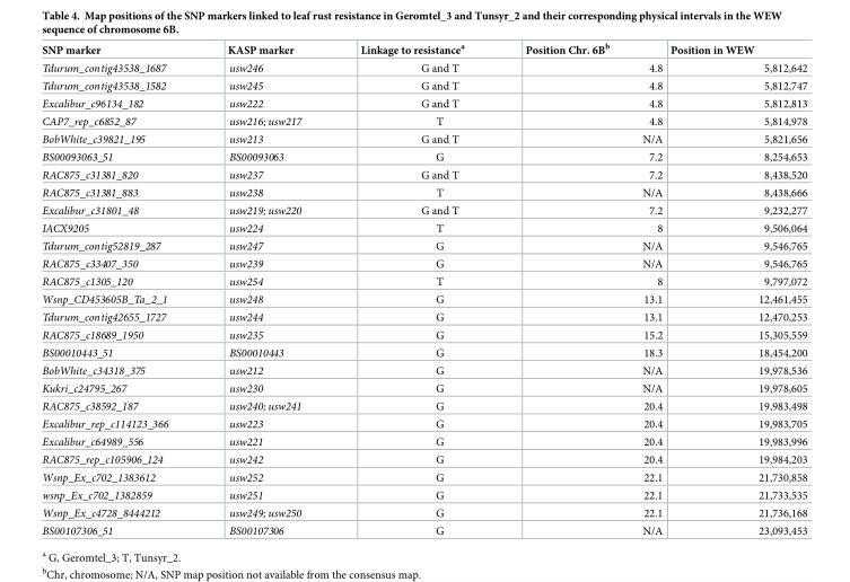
<table><thead><tr><td>SNP marker</td><td>KASP marker</td><td>Linkage to resistance<sup>a</sup></td><td>Position Chr. 6B<sup>b</sup></td><td>Position in WEW</td></tr></thead><tbody><tr><td>Tdurum_contig43538_1687</td><td>usw246</td><td>G and T</td><td>4.8</td><td>5,812,642</td></tr><tr><td>Tdurum_contig43538_1582</td><td>usw245</td><td>G and T</td><td>4.8</td><td>5,812,747</td></tr><tr><td>Excalibur_c96134_182</td><td>usw222</td><td>G and T</td><td>4.8</td><td>5,812,813</td></tr><tr><td>CAP7_rep_c6852_87</td><td>usw216; usw217</td><td>T</td><td>4.8</td><td>5,814,978</td></tr><tr><td>BobWhite_c39821_195</td><td>usw213</td><td>G and T</td><td>N/A</td><td>5,821,656</td></tr><tr><td>BS00093063_51</td><td>BS00093063</td><td>G</td><td>7.2</td><td>8,254,653</td></tr><tr><td>RAC875_c31381_820</td><td>usw237</td><td>G and T</td><td>7.2</td><td>8,438,520</td></tr><tr><td>RAC875_c31381_883</td><td>usw238</td><td>T</td><td>N/A</td><td>8,438,666</td></tr><tr><td>Excalibur_c31801_48</td><td>usw219; usw220</td><td>G and T</td><td>7.2</td><td>9,232,277</td></tr><tr><td>IACX9205</td><td>usw224</td><td>T</td><td>8</td><td>9,506,064</td></tr><tr><td>Tdurum_contig52819_287</td><td>usw247</td><td>G</td><td>N/A</td><td>9,546,765</td></tr><tr><td>RAC875_c33407_350</td><td>usw239</td><td>G</td><td>N/A</td><td>9,546,765</td></tr><tr><td>RAC875_c1305_120</td><td>usw254</td><td>T</td><td>8</td><td>9,797,072</td></tr><tr><td>Wsnp_CD453605B_Ta_2_1</td><td>usw248</td><td>G</td><td>13.1</td><td>12,461,455</td></tr><tr><td>Tdurum_contig42655_1727</td><td>usw244</td><td>G</td><td>13.1</td><td>12,470,253</td></tr><tr><td>RAC875_c18689_1950</td><td>usw235</td><td>G</td><td>15.2</td><td>15,305,559</td></tr><tr><td>BS00010443_51</td><td>BS00010443</td><td>G</td><td>18.3</td><td>18,454,200</td></tr><tr><td>BobWhite_c34318_375</td><td>usw212</td><td>G</td><td>N/A</td><td>19,978,536</td></tr><tr><td>Kukri_c24795_267</td><td>usw230</td><td>G</td><td>N/A</td><td>19,978,605</td></tr><tr><td>RAC875_c38592_187</td><td>usw240; usw241</td><td>G</td><td>20.4</td><td>19,983,498</td></tr><tr><td>Excalibur_rep_c114123_366</td><td>usw223</td><td>G</td><td>20.4</td><td>19,983,705</td></tr><tr><td>Excalibur_c64989_556</td><td>usw221</td><td>G</td><td>20.4</td><td>19,983,996</td></tr><tr><td>RAC875_rep_c105906_124</td><td>usw242</td><td>G</td><td>20.4</td><td>19,984,203</td></tr><tr><td>Wsnp_Ex_c702_1383612</td><td>usw252</td><td>G</td><td>22.1</td><td>21,730,858</td></tr><tr><td>wsnp_Ex_c702_1382859</td><td>usw251</td><td>G</td><td>22.1</td><td>21,733,535</td></tr><tr><td>Wsnp_Ex_c4728_8444212</td><td>usw249; usw250</td><td>G</td><td>22.1</td><td>21,736,168</td></tr><tr><td>BS00107306_51</td><td>BS00107306</td><td>G</td><td>N/A</td><td>23,093,453</td></tr></tbody></table>